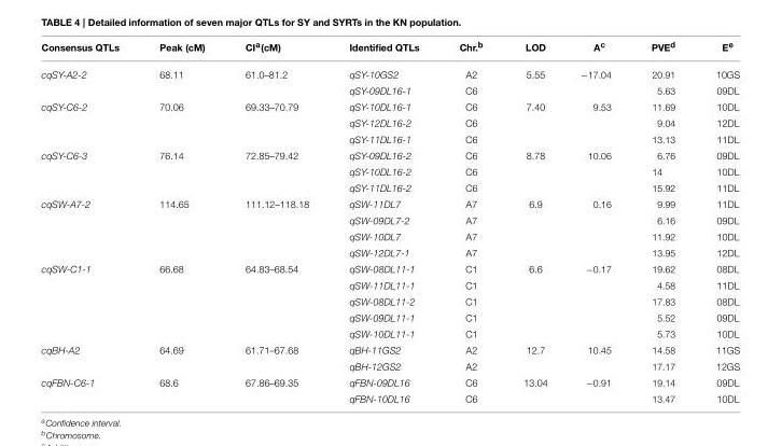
<table><thead><tr><td>Consensus QTLs</td><td>Peak (cM)</td><td>CI<sup>a</sup>(cM)</td><td>Identified QTLs</td><td>Chr.<sup>b</sup></td><td>LOD</td><td>A<sup>c</sup></td><td>PVE<sup>d</sup></td><td>E<sup>e</sup></td></tr></thead><tbody><tr><td rowspan="2">cqSY-A2-2</td><td>68.11</td><td>61.0–81.2</td><td>qSY-10GS2</td><td>A2</td><td>5.55</td><td>−17.04</td><td>20.91</td><td>10GS</td></tr><tr><td></td><td></td><td>qSY-09DL16-1</td><td>C6</td><td></td><td></td><td>5.63</td><td>09DL</td></tr><tr><td rowspan="3">cqSY-C6-2</td><td>70.06</td><td>69.33–70.79</td><td>qSY-10DL16-1</td><td>C6</td><td>7.40</td><td>9.53</td><td>11.69</td><td>10DL</td></tr><tr><td></td><td></td><td>qSY-12DL16-2</td><td>C6</td><td></td><td></td><td>9.04</td><td>12DL</td></tr><tr><td></td><td></td><td>qSY-11DL16-1</td><td>C6</td><td></td><td></td><td>13.13</td><td>11DL</td></tr><tr><td rowspan="3">cqSY-C6-3</td><td>76.14</td><td>72.85–79.42</td><td>qSY-09DL16-2</td><td>C6</td><td>8.78</td><td>10.06</td><td>6.76</td><td>09DL</td></tr><tr><td></td><td></td><td>qSY-10DL16-2</td><td>C6</td><td></td><td></td><td>14</td><td>10DL</td></tr><tr><td></td><td></td><td>qSY-11DL16-2</td><td>C6</td><td></td><td></td><td>15.92</td><td>11DL</td></tr><tr><td rowspan="4">cqSW-A7-2</td><td>114.65</td><td>111.12–118.18</td><td>qSW-11DL7</td><td>A7</td><td>6.9</td><td>0.16</td><td>9.99</td><td>11DL</td></tr><tr><td></td><td></td><td>qSW-09DL7-2</td><td>A7</td><td></td><td></td><td>6.16</td><td>09DL</td></tr><tr><td></td><td></td><td>qSW-10DL7</td><td>A7</td><td></td><td></td><td>11.92</td><td>10DL</td></tr><tr><td></td><td></td><td>qSW-12DL7-1</td><td>A7</td><td></td><td></td><td>13.95</td><td>12DL</td></tr><tr><td rowspan="5">cqSW-C1-1</td><td>66.68</td><td>64.83–68.54</td><td>qSW-08DL11-1</td><td>C1</td><td>6.6</td><td>−0.17</td><td>19.62</td><td>08DL</td></tr><tr><td></td><td></td><td>qSW-11DL11-1</td><td>C1</td><td></td><td></td><td>4.58</td><td>11DL</td></tr><tr><td></td><td></td><td>qSW-08DL11-2</td><td>C1</td><td></td><td></td><td>17.83</td><td>08DL</td></tr><tr><td></td><td></td><td>qSW-09DL11-1</td><td>C1</td><td></td><td></td><td>5.52</td><td>09DL</td></tr><tr><td></td><td></td><td>qSW-10DL11-1</td><td>C1</td><td></td><td></td><td>5.73</td><td>10DL</td></tr><tr><td rowspan="2">cqBH-A2</td><td>64.69</td><td>61.71–67.68</td><td>qBH-11GS2</td><td>A2</td><td>12.7</td><td>10.45</td><td>14.58</td><td>11GS</td></tr><tr><td></td><td></td><td>qBH-12GS2</td><td>A2</td><td></td><td></td><td>17.17</td><td>12GS</td></tr><tr><td rowspan="2">cqFBN-C6-1</td><td>68.6</td><td>67.86–69.35</td><td>qFBN-09DL16</td><td>C6</td><td>13.04</td><td>−0.91</td><td>19.14</td><td>09DL</td></tr><tr><td></td><td></td><td>qFBN-10DL16</td><td>C6</td><td></td><td></td><td>13.47</td><td>10DL</td></tr></tbody></table>